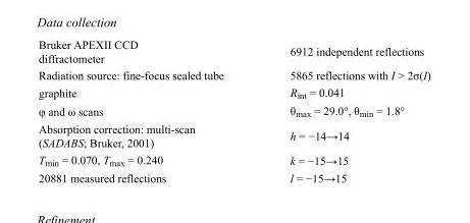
<table><tbody><tr><td>Bruker APEXII CCD diffractometer</td><td>6912 independent reflections</td></tr><tr><td>Radiation source: fine-focus sealed tube</td><td>5865 reflections with I &gt; 2σ(I)</td></tr><tr><td>graphite</td><td>R<sub>int</sub> = 0.041</td></tr><tr><td>φ and ω scans</td><td>θ<sub>max</sub> = 29.0°, θ<sub>min</sub> = 1.8°</td></tr><tr><td>Absorption correction: multi-scan (SADABS; Bruker, 2001)</td><td>h = −14→14</td></tr><tr><td>T<sub>min</sub> = 0.070, T<sub>max</sub> = 0.240</td><td>k = −15→15</td></tr><tr><td>20881 measured reflections</td><td>l = −15→15</td></tr></tbody></table>